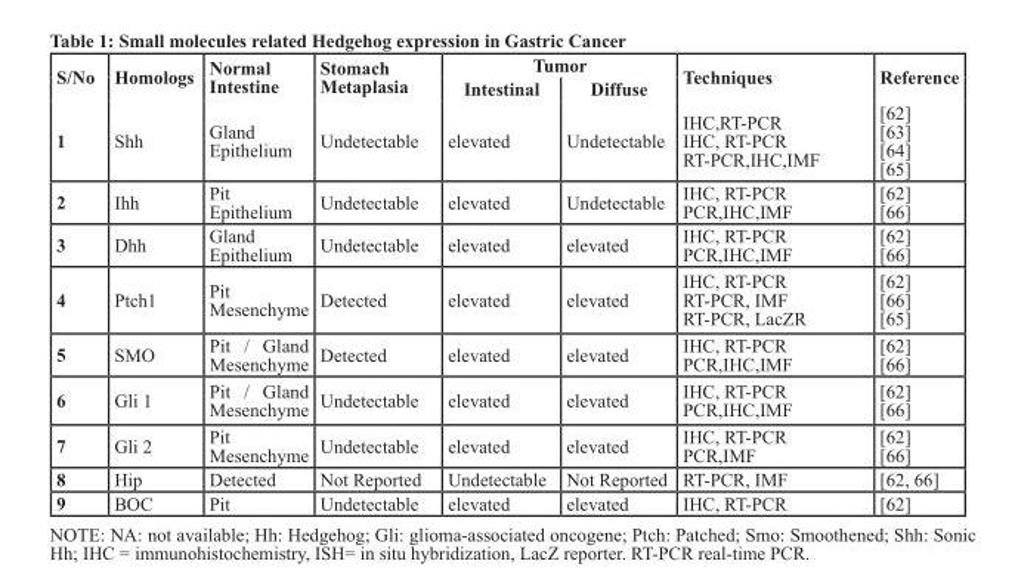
<table><thead><tr><td rowspan="2">S/No</td><td rowspan="2">Homologs</td><td rowspan="2">Normal Intestine</td><td rowspan="2">Stomach Metaplasia</td><td colspan="2">Tumor</td><td rowspan="2">Techniques</td><td rowspan="2">Reference</td></tr><tr><td>Intestinal</td><td>Diffuse</td></tr></thead><tbody><tr><td>1</td><td>Shh</td><td>Gland Epithelium</td><td>Undetectable</td><td>elevated</td><td>Undetectable</td><td>IHC,RT-PCR IHC, RT-PCR RT-PCR,IHC,IMF</td><td>[62] [63] [64] [65]</td></tr><tr><td>2</td><td>Ihh</td><td>Pit Epithelium</td><td>Undetectable</td><td>elevated</td><td>Undetectable</td><td>IHC, RT-PCR PCR,IHC,IMF</td><td>[62] [66]</td></tr><tr><td>3</td><td>Dhh</td><td>Gland Epithelium</td><td>Undetectable</td><td>elevated</td><td>elevated</td><td>IHC, RT-PCR PCR,IHC,IMF</td><td>[62] [66]</td></tr><tr><td>4</td><td>Ptch1</td><td>Pit Mesenchyme</td><td>Detected</td><td>elevated</td><td>elevated</td><td>IHC, RT-PCR RT-PCR, IMF RT-PCR, LacZR</td><td>[62] [66] [65]</td></tr><tr><td>5</td><td>SMO</td><td>Pit / Gland Mesenchyme</td><td>Detected</td><td>elevated</td><td>elevated</td><td>IHC, RT-PCR PCR,IHC,IMF</td><td>[62] [66]</td></tr><tr><td>6</td><td>Gli 1</td><td>Pit / Gland Mesenchyme</td><td>Undetectable</td><td>elevated</td><td>elevated</td><td>IHC, RT-PCR PCR,IHC,IMF</td><td>[62] [66]</td></tr><tr><td>7</td><td>Gli 2</td><td>Pit Mesenchyme</td><td>Undetectable</td><td>elevated</td><td>elevated</td><td>IHC, RT-PCR PCR,IMF</td><td>[62] [66]</td></tr><tr><td>8</td><td>Hip</td><td>Detected</td><td>Not Reported</td><td>Undetectable</td><td>Not Reported</td><td>RT-PCR, IMF</td><td>[62, 66]</td></tr><tr><td>9</td><td>BOC</td><td>Pit</td><td>Undetectable</td><td>elevated</td><td>elevated</td><td>IHC, RT-PCR</td><td>[62]</td></tr></tbody></table>